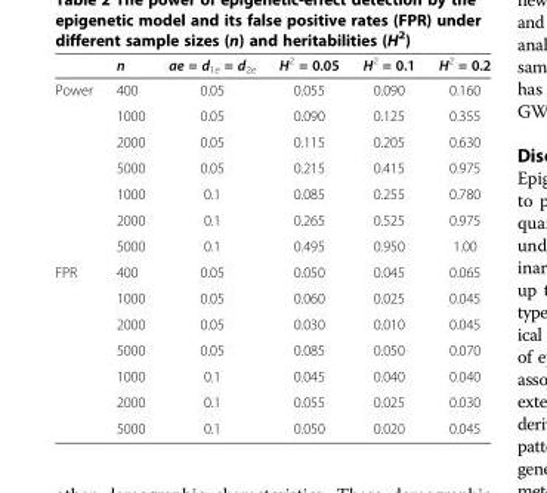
<table><thead><tr><td></td><td>n</td><td>ae = d<sub>1e</sub> = d<sub>2e</sub></td><td>H<sup>2</sup> = 0.05</td><td>H<sup>2</sup> = 0.1</td><td>H<sup>2</sup> = 0.2</td></tr></thead><tbody><tr><td rowspan="7">Power</td><td>400</td><td>0.05</td><td>0.055</td><td>0.090</td><td>0.160</td></tr><tr><td>1000</td><td>0.05</td><td>0.090</td><td>0.125</td><td>0.355</td></tr><tr><td>2000</td><td>0.05</td><td>0.115</td><td>0.205</td><td>0.630</td></tr><tr><td>5000</td><td>0.05</td><td>0.215</td><td>0.415</td><td>0.975</td></tr><tr><td>1000</td><td>0.1</td><td>0.085</td><td>0.255</td><td>0.780</td></tr><tr><td>2000</td><td>0.1</td><td>0.265</td><td>0.525</td><td>0.975</td></tr><tr><td>5000</td><td>0.1</td><td>0.495</td><td>0.950</td><td>1.00</td></tr><tr><td rowspan="7">FPR</td><td>400</td><td>0.05</td><td>0.050</td><td>0.045</td><td>0.065</td></tr><tr><td>1000</td><td>0.05</td><td>0.060</td><td>0.025</td><td>0.045</td></tr><tr><td>2000</td><td>0.05</td><td>0.030</td><td>0.010</td><td>0.045</td></tr><tr><td>5000</td><td>0.05</td><td>0.085</td><td>0.050</td><td>0.070</td></tr><tr><td>1000</td><td>0.1</td><td>0.045</td><td>0.040</td><td>0.040</td></tr><tr><td>2000</td><td>0.1</td><td>0.055</td><td>0.025</td><td>0.030</td></tr><tr><td>5000</td><td>0.1</td><td>0.050</td><td>0.020</td><td>0.045</td></tr></tbody></table>